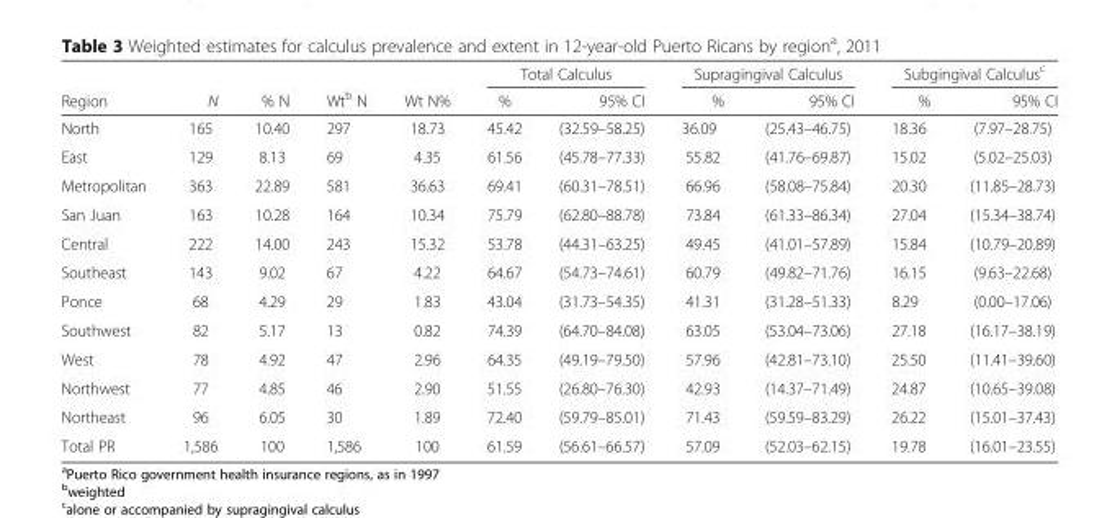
<table><thead><tr><td rowspan="2">Region</td><td rowspan="2">N</td><td rowspan="2">% N</td><td rowspan="2">Wt<sup>b</sup> N</td><td rowspan="2">Wt N%</td><td colspan="2">Total Calculus</td><td colspan="2">Supragingival Calculus</td><td colspan="2">Subgingival Calculus<sup>c</sup></td></tr><tr><td>%</td><td>95% CI</td><td>%</td><td>95% CI</td><td>%</td><td>95% CI</td></tr></thead><tbody><tr><td>North</td><td>165</td><td>10.40</td><td>297</td><td>18.73</td><td>45.42</td><td>(32.59–58.25)</td><td>36.09</td><td>(25.43–46.75)</td><td>18.36</td><td>(7.97–28.75)</td></tr><tr><td>East</td><td>129</td><td>8.13</td><td>69</td><td>4.35</td><td>61.56</td><td>(45.78–77.33)</td><td>55.82</td><td>(41.76–69.87)</td><td>15.02</td><td>(5.02–25.03)</td></tr><tr><td>Metropolitan</td><td>363</td><td>22.89</td><td>581</td><td>36.63</td><td>69.41</td><td>(60.31–78.51)</td><td>66.96</td><td>(58.08–75.84)</td><td>20.30</td><td>(11.85–28.73)</td></tr><tr><td>San Juan</td><td>163</td><td>10.28</td><td>164</td><td>10.34</td><td>75.79</td><td>(62.80–88.78)</td><td>73.84</td><td>(61.33–86.34)</td><td>27.04</td><td>(15.34–38.74)</td></tr><tr><td>Central</td><td>222</td><td>14.00</td><td>243</td><td>15.32</td><td>53.78</td><td>(44.31–63.25)</td><td>49.45</td><td>(41.01–57.89)</td><td>15.84</td><td>(10.79–20.89)</td></tr><tr><td>Southeast</td><td>143</td><td>9.02</td><td>67</td><td>4.22</td><td>64.67</td><td>(54.73–74.61)</td><td>60.79</td><td>(49.82–71.76)</td><td>16.15</td><td>(9.63–22.68)</td></tr><tr><td>Ponce</td><td>68</td><td>4.29</td><td>29</td><td>1.83</td><td>43.04</td><td>(31.73–54.35)</td><td>41.31</td><td>(31.28–51.33)</td><td>8.29</td><td>(0.00–17.06)</td></tr><tr><td>Southwest</td><td>82</td><td>5.17</td><td>13</td><td>0.82</td><td>74.39</td><td>(64.70–84.08)</td><td>63.05</td><td>(53.04–73.06)</td><td>27.18</td><td>(16.17–38.19)</td></tr><tr><td>West</td><td>78</td><td>4.92</td><td>47</td><td>2.96</td><td>64.35</td><td>(49.19–79.50)</td><td>57.96</td><td>(42.81–73.10)</td><td>25.50</td><td>(11.41–39.60)</td></tr><tr><td>Northwest</td><td>77</td><td>4.85</td><td>46</td><td>2.90</td><td>51.55</td><td>(26.80–76.30)</td><td>42.93</td><td>(14.37–71.49)</td><td>24.87</td><td>(10.65–39.08)</td></tr><tr><td>Northeast</td><td>96</td><td>6.05</td><td>30</td><td>1.89</td><td>72.40</td><td>(59.79–85.01)</td><td>71.43</td><td>(59.59–83.29)</td><td>26.22</td><td>(15.01–37.43)</td></tr><tr><td>Total PR</td><td>1,586</td><td>100</td><td>1,586</td><td>100</td><td>61.59</td><td>(56.61–66.57)</td><td>57.09</td><td>(52.03–62.15)</td><td>19.78</td><td>(16.01–23.55)</td></tr></tbody></table>